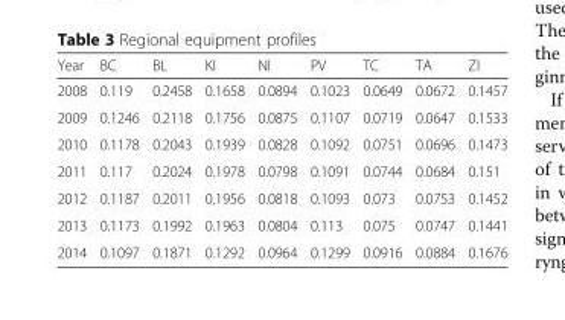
<table><thead><tr><td>Year</td><td>BC</td><td>BL</td><td>KI</td><td>NI</td><td>PV</td><td>TC</td><td>TA</td><td>ZI</td></tr></thead><tbody><tr><td>2008</td><td>0.119</td><td>0.2458</td><td>0.1658</td><td>0.0894</td><td>0.1023</td><td>0.0649</td><td>0.0672</td><td>0.1457</td></tr><tr><td>2009</td><td>0.1246</td><td>0.2118</td><td>0.1756</td><td>0.0875</td><td>0.1107</td><td>0.0719</td><td>0.0647</td><td>0.1533</td></tr><tr><td>2010</td><td>0.1178</td><td>0.2043</td><td>0.1939</td><td>0.0828</td><td>0.1092</td><td>0.0751</td><td>0.0696</td><td>0.1473</td></tr><tr><td>2011</td><td>0.117</td><td>0.2024</td><td>0.1978</td><td>0.0798</td><td>0.1091</td><td>0.0744</td><td>0.0684</td><td>0.151</td></tr><tr><td>2012</td><td>0.1187</td><td>0.2011</td><td>0.1956</td><td>0.0818</td><td>0.1093</td><td>0.073</td><td>0.0753</td><td>0.1452</td></tr><tr><td>2013</td><td>0.1173</td><td>0.1992</td><td>0.1963</td><td>0.0804</td><td>0.113</td><td>0.075</td><td>0.0747</td><td>0.1441</td></tr><tr><td>2014</td><td>0.1097</td><td>0.1871</td><td>0.1292</td><td>0.0964</td><td>0.1299</td><td>0.0916</td><td>0.0884</td><td>0.1676</td></tr></tbody></table>